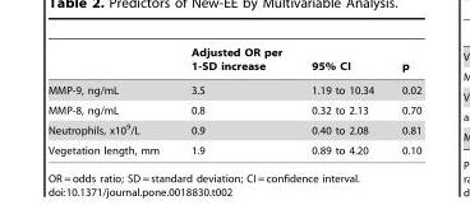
<table><thead><tr><td></td><td>Adjusted OR per 1-SD increase</td><td>95% CI</td><td>p</td></tr></thead><tbody><tr><td>MMP-9, ng/mL</td><td>3.5</td><td>1.19 to 10.34</td><td>0.02</td></tr><tr><td>MMP-8, ng/mL</td><td>0.8</td><td>0.32 to 2.13</td><td>0.70</td></tr><tr><td>Neutrophils, x10<sup>9</sup>/L</td><td>0.9</td><td>0.40 to 2.08</td><td>0.81</td></tr><tr><td>Vegetation length, mm</td><td>1.9</td><td>0.89 to 4.20</td><td>0.10</td></tr></tbody></table>